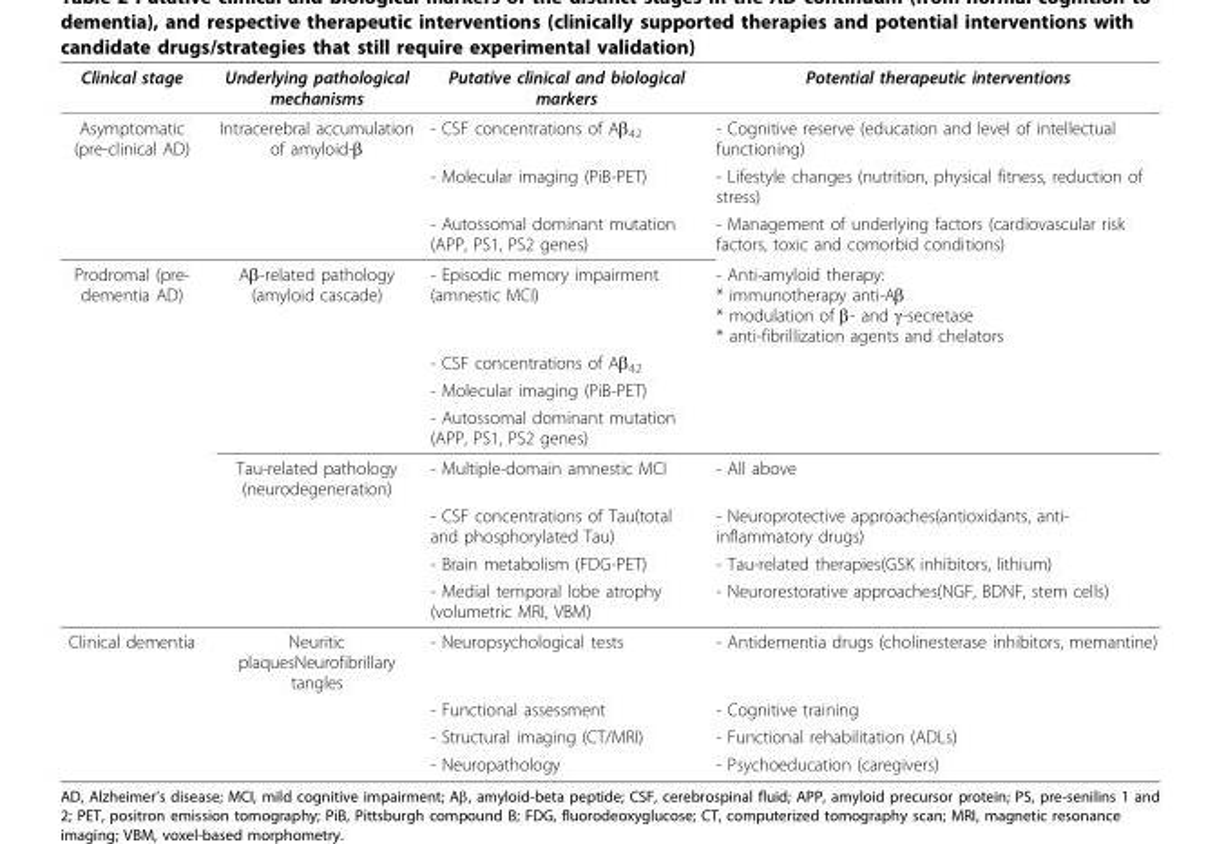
<table><thead><tr><td>Clinical stage</td><td>Underlying pathological mechanisms</td><td>Putative clinical and biological markers</td><td>Potential therapeutic interventions</td></tr></thead><tbody><tr><td rowspan="3">Asymptomatic (pre-clinical AD)</td><td>Intracerebral accumulation of amyloid-β</td><td>- CSF concentrations of Aβ<sub>42</sub></td><td>- Cognitive reserve (education and level of intellectual functioning)</td></tr><tr><td></td><td>- Molecular imaging (PiB-PET)</td><td>- Lifestyle changes (nutrition, physical fitness, reduction of stress)</td></tr><tr><td></td><td>- Autossomal dominant mutation (APP, PS1, PS2 genes)</td><td>- Management of underlying factors (cardiovascular risk factors, toxic and comorbid conditions)</td></tr><tr><td rowspan="8">Prodromal (pre- dementia AD)</td><td>Aβ-related pathology (amyloid cascade)</td><td>- Episodic memory impairment (amnestic MCI)</td><td>- Anti-amyloid therapy: * immunotherapy anti-Aβ * modulation of β- and γ-secretase * anti-fibrillization agents and chelators</td></tr><tr><td></td><td>- CSF concentrations of Aβ<sub>42</sub></td><td></td></tr><tr><td></td><td>- Molecular imaging (PiB-PET)</td><td></td></tr><tr><td></td><td>- Autossomal dominant mutation (APP, PS1, PS2 genes)</td><td></td></tr><tr><td>Tau-related pathology (neurodegeneration)</td><td>- Multiple-domain amnestic MCI</td><td>- All above</td></tr><tr><td></td><td>- CSF concentrations of Tau(total and phosphorylated Tau)</td><td>- Neuroprotective approaches(antioxidants, anti- inflammatory drugs)</td></tr><tr><td></td><td>- Brain metabolism (FDG-PET)</td><td>- Tau-related therapies(GSK inhibitors, lithium)</td></tr><tr><td></td><td>- Medial temporal lobe atrophy (volumetric MRI, VBM)</td><td>- Neurorestorative approaches(NGF, BDNF, stem cells)</td></tr><tr><td rowspan="4">Clinical dementia</td><td>Neuritic plaquesNeurofibrillary tangles</td><td>- Neuropsychological tests</td><td>- Antidementia drugs (cholinesterase inhibitors, memantine)</td></tr><tr><td></td><td>- Functional assessment</td><td>- Cognitive training</td></tr><tr><td></td><td>- Structural imaging (CT/MRI)</td><td>- Functional rehabilitation (ADLs)</td></tr><tr><td></td><td>- Neuropathology</td><td>- Psychoeducation (caregivers)</td></tr></tbody></table>